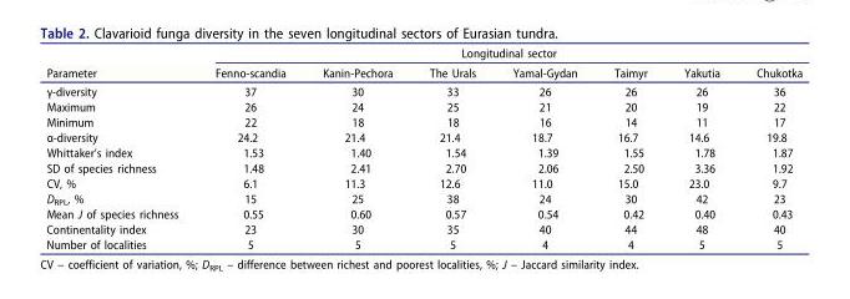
<table><thead><tr><td rowspan="2">Parameter</td><td colspan="7">Longitudinal sector</td></tr><tr><td>Fenno-scandia</td><td>Kanin-Pechora</td><td>The Urals</td><td>Yamal-Gydan</td><td>Taimyr</td><td>Yakutia</td><td>Chukotka</td></tr></thead><tbody><tr><td>γ-diversity</td><td>37</td><td>30</td><td>33</td><td>26</td><td>26</td><td>26</td><td>36</td></tr><tr><td>Maximum</td><td>26</td><td>24</td><td>25</td><td>21</td><td>20</td><td>19</td><td>22</td></tr><tr><td>Minimum</td><td>22</td><td>18</td><td>18</td><td>16</td><td>14</td><td>11</td><td>17</td></tr><tr><td>α-diversity</td><td>24.2</td><td>21.4</td><td>21.4</td><td>18.7</td><td>16.7</td><td>14.6</td><td>19.8</td></tr><tr><td>Whittaker’s index</td><td>1.53</td><td>1.40</td><td>1.54</td><td>1.39</td><td>1.55</td><td>1.78</td><td>1.87</td></tr><tr><td>SD of species richness</td><td>1.48</td><td>2.41</td><td>2.70</td><td>2.06</td><td>2.50</td><td>3.36</td><td>1.92</td></tr><tr><td>CV, %</td><td>6.1</td><td>11.3</td><td>12.6</td><td>11.0</td><td>15.0</td><td>23.0</td><td>9.7</td></tr><tr><td>D<sub>RPL</sub>, %</td><td>15</td><td>25</td><td>38</td><td>24</td><td>30</td><td>42</td><td>23</td></tr><tr><td>Mean J of species richness</td><td>0.55</td><td>0.60</td><td>0.57</td><td>0.54</td><td>0.42</td><td>0.40</td><td>0.43</td></tr><tr><td>Continentality index</td><td>23</td><td>30</td><td>35</td><td>40</td><td>44</td><td>48</td><td>40</td></tr><tr><td>Number of localities</td><td>5</td><td>5</td><td>5</td><td>4</td><td>4</td><td>5</td><td>5</td></tr></tbody></table>